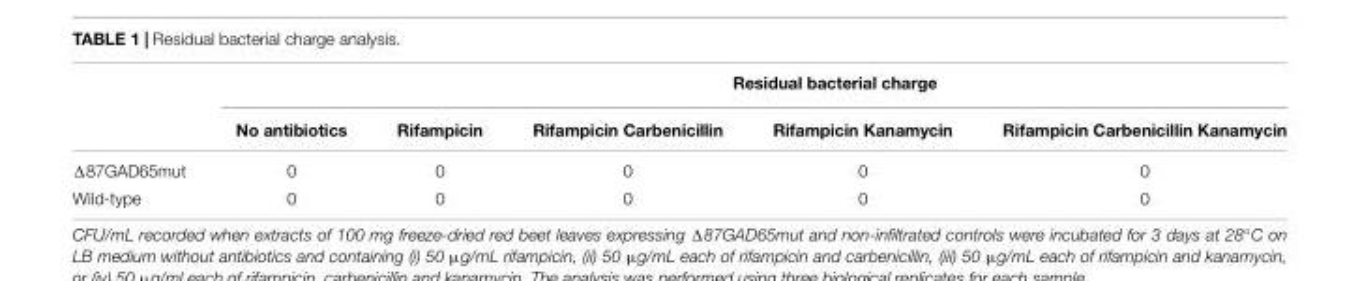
<table><thead><tr><td rowspan="2"></td><td colspan="5">Residual bacterial charge</td></tr><tr><td>No antibiotics</td><td>Rifampicin</td><td>Rifampicin Carbenicillin</td><td>Rifampicin Kanamycin</td><td>Rifampicin Carbenicillin Kanamycin</td></tr></thead><tbody><tr><td>Δ87GAD65mut</td><td>0</td><td>0</td><td>0</td><td>0</td><td>0</td></tr><tr><td>Wild-type</td><td>0</td><td>0</td><td>0</td><td>0</td><td>0</td></tr></tbody></table>